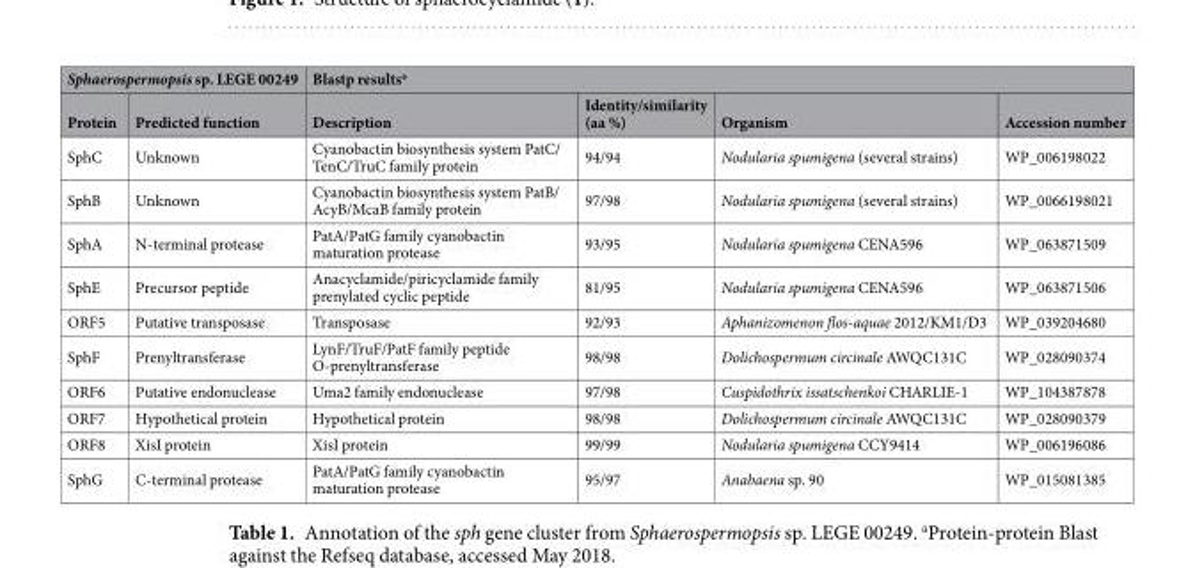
<table><thead><tr><td colspan="2">Sphaerospermopsis sp. LEGE 00249</td><td colspan="4">Blastp results<sup>a</sup></td></tr><tr><td>Protein</td><td>Predicted function</td><td>Description</td><td>Identity/similarity (aa %)</td><td>Organism</td><td>Accession number</td></tr></thead><tbody><tr><td>SphC</td><td>Unknown</td><td>Cyanobactin biosynthesis system PatC/ TenC/TruC family protein</td><td>94/94</td><td>Nodularia spumigena (several strains)</td><td>WP_006198022</td></tr><tr><td>SphB</td><td>Unknown</td><td>Cyanobactin biosynthesis system PatB/ AcyB/McaB family protein</td><td>97/98</td><td>Nodularia spumigena (several strains)</td><td>WP_0066198021</td></tr><tr><td>SphA</td><td>N-terminal protease</td><td>PatA/PatG family cyanobactin maturation protease</td><td>93/95</td><td>Nodularia spumigena CENA596</td><td>WP_063871509</td></tr><tr><td>SphE</td><td>Precursor peptide</td><td>Anacyclamide/piricyclamide family prenylated cyclic peptide</td><td>81/95</td><td>Nodularia spumigena CENA596</td><td>WP_063871506</td></tr><tr><td>ORF5</td><td>Putative transposase</td><td>Transposase</td><td>92/93</td><td>Aphanizomenon flos-aquae 2012/KM1/D3</td><td>WP_039204680</td></tr><tr><td>SphF</td><td>Prenyltransferase</td><td>LynF/TruF/PatF family peptide O-prenyltransferase</td><td>98/98</td><td>Dolichospermum circinale AWQC131C</td><td>WP_028090374</td></tr><tr><td>ORF6</td><td>Putative endonuclease</td><td>Uma2 family endonuclease</td><td>97/98</td><td>Cuspidothrix issatschenkoi CHARLIE-1</td><td>WP_104387878</td></tr><tr><td>ORF7</td><td>Hypothetical protein</td><td>Hypothetical protein</td><td>98/98</td><td>Dolichospermum circinale AWQC131C</td><td>WP_028090379</td></tr><tr><td>ORF8</td><td>XisI protein</td><td>XisI protein</td><td>99/99</td><td>Nodularia spumigena CCY9414</td><td>WP_006196086</td></tr><tr><td>SphG</td><td>C-terminal protease</td><td>PatA/PatG family cyanobactin maturation protease</td><td>95/97</td><td>Anabaena sp. 90</td><td>WP_015081385</td></tr></tbody></table>